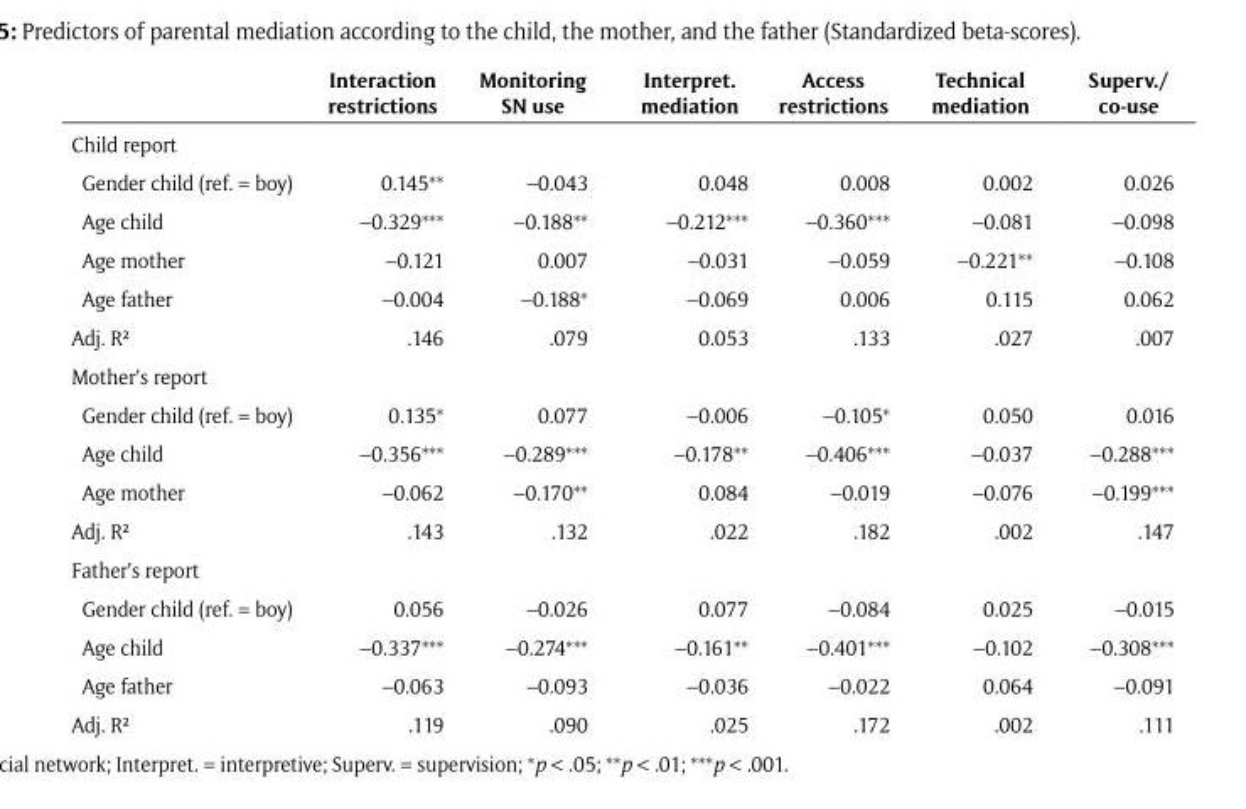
<table><thead><tr><td></td><td>Interaction restrictions</td><td>Monitoring SN use</td><td>Interpret. mediation</td><td>Access restrictions</td><td>Technical mediation</td><td>Superv./ co-use</td></tr></thead><tbody><tr><td colspan="7">Child report</td></tr><tr><td>Gender child (ref. = boy)</td><td>0.145**</td><td>–0.043</td><td>0.048</td><td>0.008</td><td>0.002</td><td>0.026</td></tr><tr><td>Age child</td><td>–0.329***</td><td>–0.188**</td><td>–0.212***</td><td>–0.360***</td><td>–0.081</td><td>–0.098</td></tr><tr><td>Age mother</td><td>–0.121</td><td>0.007</td><td>–0.031</td><td>–0.059</td><td>–0.221**</td><td>–0.108</td></tr><tr><td>Age father</td><td>–0.004</td><td>–0.188*</td><td>–0.069</td><td>0.006</td><td>0.115</td><td>0.062</td></tr><tr><td>Adj. R²</td><td>.146</td><td>.079</td><td>0.053</td><td>.133</td><td>.027</td><td>.007</td></tr><tr><td colspan="7">Mother’s report</td></tr><tr><td>Gender child (ref. = boy)</td><td>0.135*</td><td>0.077</td><td>–0.006</td><td>–0.105*</td><td>0.050</td><td>0.016</td></tr><tr><td>Age child</td><td>–0.356***</td><td>–0.289***</td><td>–0.178**</td><td>–0.406***</td><td>–0.037</td><td>–0.288***</td></tr><tr><td>Age mother</td><td>–0.062</td><td>–0.170**</td><td>0.084</td><td>–0.019</td><td>–0.076</td><td>–0.199***</td></tr><tr><td>Adj. R²</td><td>.143</td><td>.132</td><td>.022</td><td>.182</td><td>.002</td><td>.147</td></tr><tr><td colspan="7">Father’s report</td></tr><tr><td>Gender child (ref. = boy)</td><td>0.056</td><td>–0.026</td><td>0.077</td><td>–0.084</td><td>0.025</td><td>–0.015</td></tr><tr><td>Age child</td><td>–0.337***</td><td>–0.274***</td><td>–0.161**</td><td>–0.401***</td><td>–0.102</td><td>–0.308***</td></tr><tr><td>Age father</td><td>–0.063</td><td>–0.093</td><td>–0.036</td><td>–0.022</td><td>0.064</td><td>–0.091</td></tr><tr><td>Adj. R²</td><td>.119</td><td>.090</td><td>.025</td><td>.172</td><td>.002</td><td>.111</td></tr></tbody></table>